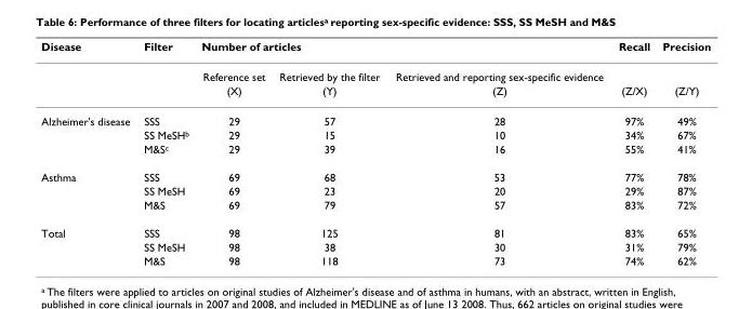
<table><thead><tr><td rowspan="2">Disease</td><td rowspan="2">Filter</td><td colspan="3">Number of articles</td><td rowspan="2">Recall</td><td rowspan="2">Precision</td></tr><tr><td>Reference set</td><td>Retrieved by the filter</td><td>Retrieved and reporting sex-specific evidence</td></tr></thead><tbody><tr><td></td><td></td><td>(X)</td><td>(Y)</td><td>(Z)</td><td>(Z/X)</td><td>(Z/Y)</td></tr><tr><td rowspan="3">Alzheimer&#x27;s disease</td><td>SSS</td><td>29</td><td>57</td><td>28</td><td>97%</td><td>49%</td></tr><tr><td>SS MeSH<sup>b</sup></td><td>29</td><td>15</td><td>10</td><td>34%</td><td>67%</td></tr><tr><td>M&amp;S<sup>c</sup></td><td>29</td><td>39</td><td>16</td><td>55%</td><td>41%</td></tr><tr><td rowspan="3">Asthma</td><td>SSS</td><td>69</td><td>68</td><td>53</td><td>77%</td><td>78%</td></tr><tr><td>SS MeSH</td><td>69</td><td>23</td><td>20</td><td>29%</td><td>87%</td></tr><tr><td>M&amp;S</td><td>69</td><td>79</td><td>57</td><td>83%</td><td>72%</td></tr><tr><td rowspan="3">Total</td><td>SSS</td><td>98</td><td>125</td><td>81</td><td>83%</td><td>65%</td></tr><tr><td>SS MeSH</td><td>98</td><td>38</td><td>30</td><td>31%</td><td>79%</td></tr><tr><td>M&amp;S</td><td>98</td><td>118</td><td>73</td><td>74%</td><td>62%</td></tr></tbody></table>